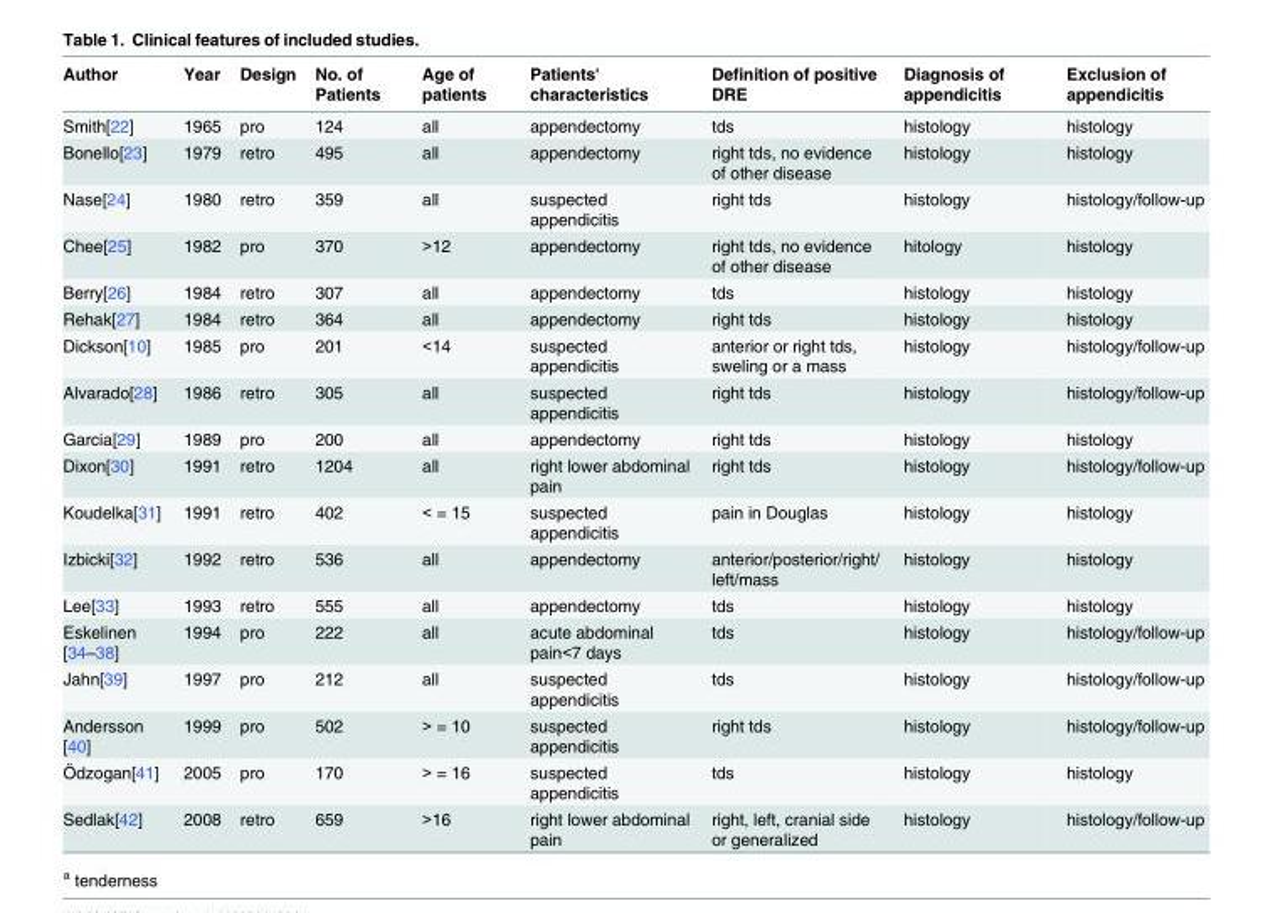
<table><thead><tr><td>Author</td><td>Year</td><td>Design</td><td>No. of Patients</td><td>Age of patients</td><td>Patients&#x27; characteristics</td><td>Definition of positive DRE</td><td>Diagnosis of appendicitis</td><td>Exclusion of appendicitis</td></tr></thead><tbody><tr><td>Smith[22]</td><td>1965</td><td>pro</td><td>124</td><td>all</td><td>appendectomy</td><td>tds</td><td>histology</td><td>histology</td></tr><tr><td>Bonello[23]</td><td>1979</td><td>retro</td><td>495</td><td>all</td><td>appendectomy</td><td>right tds, no evidence of other disease</td><td>histology</td><td>histology</td></tr><tr><td>Nase[24]</td><td>1980</td><td>retro</td><td>359</td><td>all</td><td>suspected appendicitis</td><td>right tds</td><td>histology</td><td>histology/follow-up</td></tr><tr><td>Chee[25]</td><td>1982</td><td>pro</td><td>370</td><td>&gt;12</td><td>appendectomy</td><td>right tds, no evidence of other disease</td><td>hitology</td><td>histology</td></tr><tr><td>Berry[26]</td><td>1984</td><td>retro</td><td>307</td><td>all</td><td>appendectomy</td><td>tds</td><td>histology</td><td>histology</td></tr><tr><td>Rehak[27]</td><td>1984</td><td>retro</td><td>364</td><td>all</td><td>appendectomy</td><td>right tds</td><td>histology</td><td>histology</td></tr><tr><td>Dickson[10]</td><td>1985</td><td>pro</td><td>201</td><td>&lt;14</td><td>suspected appendicitis</td><td>anterior or right tds, sweling or a mass</td><td>histology</td><td>histology/follow-up</td></tr><tr><td>Alvarado[28]</td><td>1986</td><td>retro</td><td>305</td><td>all</td><td>suspected appendicitis</td><td>right tds</td><td>histology</td><td>histology/follow-up</td></tr><tr><td>Garcia[29]</td><td>1989</td><td>pro</td><td>200</td><td>all</td><td>appendectomy</td><td>right tds</td><td>histology</td><td>histology</td></tr><tr><td>Dixon[30]</td><td>1991</td><td>retro</td><td>1204</td><td>all</td><td>right lower abdominal pain</td><td>right tds</td><td>histology</td><td>histology/follow-up</td></tr><tr><td>Koudelka[31]</td><td>1991</td><td>retro</td><td>402</td><td>&lt; = 15</td><td>suspected appendicitis</td><td>pain in Douglas</td><td>histology</td><td>histology</td></tr><tr><td>Izbicki[32]</td><td>1992</td><td>retro</td><td>536</td><td>all</td><td>appendectomy</td><td>anterior/posterior/right/ left/mass</td><td>histology</td><td>histology</td></tr><tr><td>Lee[33]</td><td>1993</td><td>retro</td><td>555</td><td>all</td><td>appendectomy</td><td>tds</td><td>histology</td><td>histology</td></tr><tr><td>Eskelinen [34–38]</td><td>1994</td><td>pro</td><td>222</td><td>all</td><td>acute abdominal pain&lt;7 days</td><td>tds</td><td>histology</td><td>histology/follow-up</td></tr><tr><td>Jahn[39]</td><td>1997</td><td>pro</td><td>212</td><td>all</td><td>suspected appendicitis</td><td>tds</td><td>histology</td><td>histology/follow-up</td></tr><tr><td>Andersson [40]</td><td>1999</td><td>pro</td><td>502</td><td>&gt; = 10</td><td>suspected appendicitis</td><td>right tds</td><td>histology</td><td>histology/follow-up</td></tr><tr><td>Ödzogan[41]</td><td>2005</td><td>pro</td><td>170</td><td>&gt; = 16</td><td>suspected appendicitis</td><td>tds</td><td>histology</td><td>histology</td></tr><tr><td>Sedlak[42]</td><td>2008</td><td>retro</td><td>659</td><td>&gt;16</td><td>right lower abdominal pain</td><td>right, left, cranial side or generalized</td><td>histology</td><td>histology/follow-up</td></tr></tbody></table>